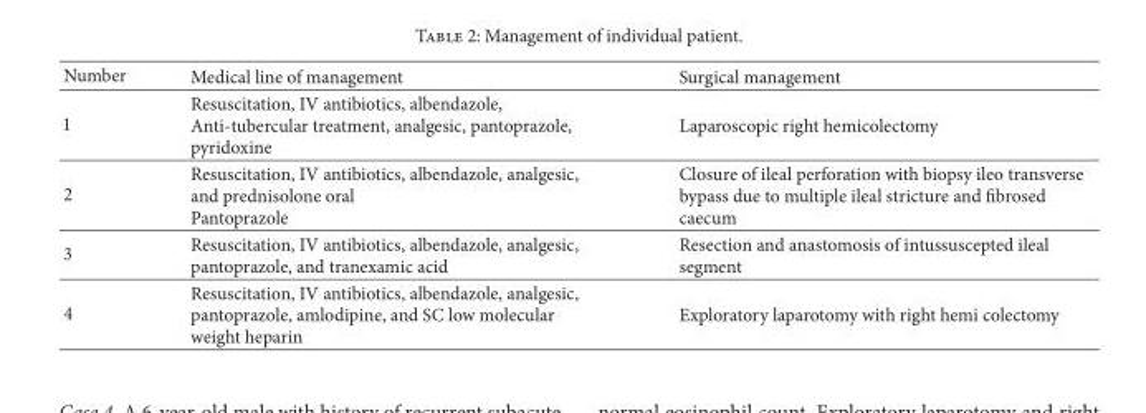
<table><thead><tr><td>Number</td><td>Medical line of management</td><td>Surgical management</td></tr></thead><tbody><tr><td>1</td><td>Resuscitation, IV antibiotics, albendazole, Anti-tubercular treatment, analgesic, pantoprazole, pyridoxine</td><td>Laparoscopic right hemicolectomy</td></tr><tr><td>2</td><td>Resuscitation, IV antibiotics, albendazole, analgesic, and prednisolone oral Pantoprazole</td><td>Closure of ileal perforation with biopsy ileo transverse bypass due to multiple ileal stricture and fibrosed caecum</td></tr><tr><td>3</td><td>Resuscitation, IV antibiotics, albendazole, analgesic, pantoprazole, and tranexamic acid</td><td>Resection and anastomosis of intussuscepted ileal segment</td></tr><tr><td>4</td><td>Resuscitation, IV antibiotics, albendazole, analgesic, pantoprazole, amlodipine, and SC low molecular weight heparin</td><td>Exploratory laparotomy with right hemi colectomy</td></tr></tbody></table>